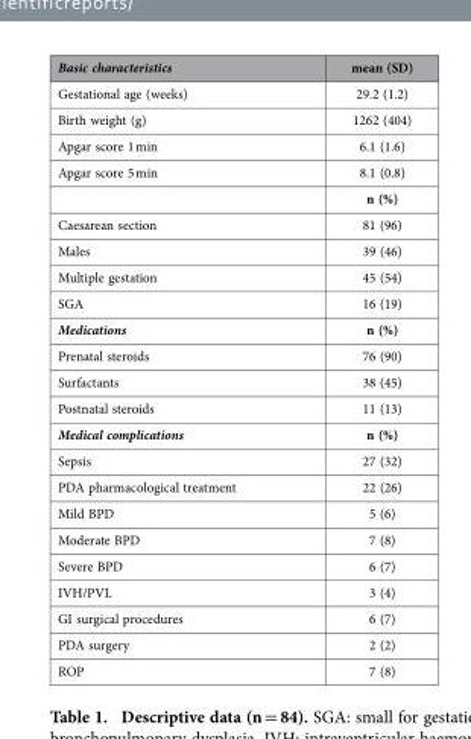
<table><thead><tr><td>Basic characteristics</td><td>mean (SD)</td></tr></thead><tbody><tr><td>Gestational age (weeks)</td><td>29.2 (1.2)</td></tr><tr><td>Birth weight (g)</td><td>1262 (404)</td></tr><tr><td>Apgar score 1 min</td><td>6.1 (1.6)</td></tr><tr><td rowspan="2">Apgar score 5 min</td><td>8.1 (0.8)</td></tr><tr><td>n (%)</td></tr><tr><td>Caesarean section</td><td>81 (96)</td></tr><tr><td>Males</td><td>39 (46)</td></tr><tr><td>Multiple gestation</td><td>45 (54)</td></tr><tr><td>SGA</td><td>16 (19)</td></tr><tr><td>Medications</td><td>n (%)</td></tr><tr><td>Prenatal steroids</td><td>76 (90)</td></tr><tr><td>Surfactants</td><td>38 (45)</td></tr><tr><td>Postnatal steroids</td><td>11 (13)</td></tr><tr><td>Medical complications</td><td>n (%)</td></tr><tr><td>Sepsis</td><td>27 (32)</td></tr><tr><td>PDA pharmacological treatment</td><td>22 (26)</td></tr><tr><td>Mild BPD</td><td>5 (6)</td></tr><tr><td>Moderate BPD</td><td>7 (8)</td></tr><tr><td>Severe BPD</td><td>6 (7)</td></tr><tr><td>IVH/PVL</td><td>3 (4)</td></tr><tr><td>GI surgical procedures</td><td>6 (7)</td></tr><tr><td>PDA surgery</td><td>2 (2)</td></tr><tr><td>ROP</td><td>7 (8)</td></tr></tbody></table>